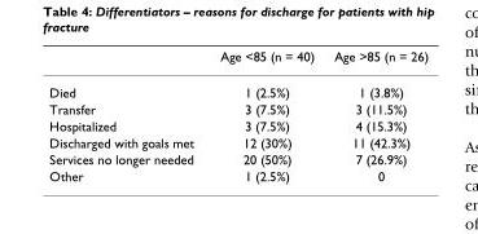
<table><thead><tr><td></td><td>Age &lt;85 (n = 40)</td><td>Age &gt;85 (n = 26)</td></tr></thead><tbody><tr><td>Died</td><td>1 (2.5%)</td><td>1 (3.8%)</td></tr><tr><td>Transfer</td><td>3 (7.5%)</td><td>3 (11.5%)</td></tr><tr><td>Hospitalized</td><td>3 (7.5%)</td><td>4 (15.3%)</td></tr><tr><td>Discharged with goals met</td><td>12 (30%)</td><td>11 (42.3%)</td></tr><tr><td>Services no longer needed</td><td>20 (50%)</td><td>7 (26.9%)</td></tr><tr><td>Other</td><td>1 (2.5%)</td><td>0</td></tr></tbody></table>